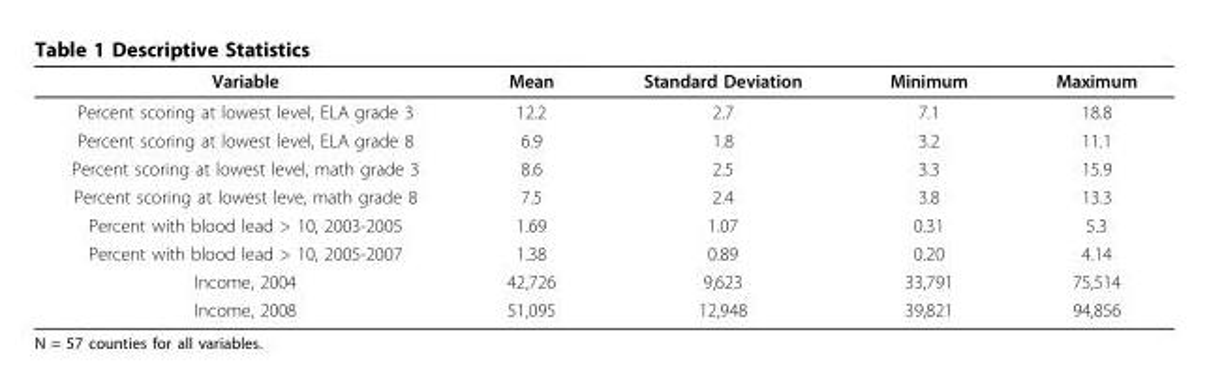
<table><thead><tr><td>Variable</td><td>Mean</td><td>Standard Deviation</td><td>Minimum</td><td>Maximum</td></tr></thead><tbody><tr><td>Percent scoring at lowest level, ELA grade 3</td><td>12.2</td><td>2.7</td><td>7.1</td><td>18.8</td></tr><tr><td>Percent scoring at lowest level, ELA grade 8</td><td>6.9</td><td>1.8</td><td>3.2</td><td>11.1</td></tr><tr><td>Percent scoring at lowest level, math grade 3</td><td>8.6</td><td>2.5</td><td>3.3</td><td>15.9</td></tr><tr><td>Percent scoring at lowest leve, math grade 8</td><td>7.5</td><td>2.4</td><td>3.8</td><td>13.3</td></tr><tr><td>Percent with blood lead &gt; 10, 2003-2005</td><td>1.69</td><td>1.07</td><td>0.31</td><td>5.3</td></tr><tr><td>Percent with blood lead &gt; 10, 2005-2007</td><td>1.38</td><td>0.89</td><td>0.20</td><td>4.14</td></tr><tr><td>Income, 2004</td><td>42,726</td><td>9,623</td><td>33,791</td><td>75,514</td></tr><tr><td>Income, 2008</td><td>51,095</td><td>12,948</td><td>39,821</td><td>94,856</td></tr></tbody></table>